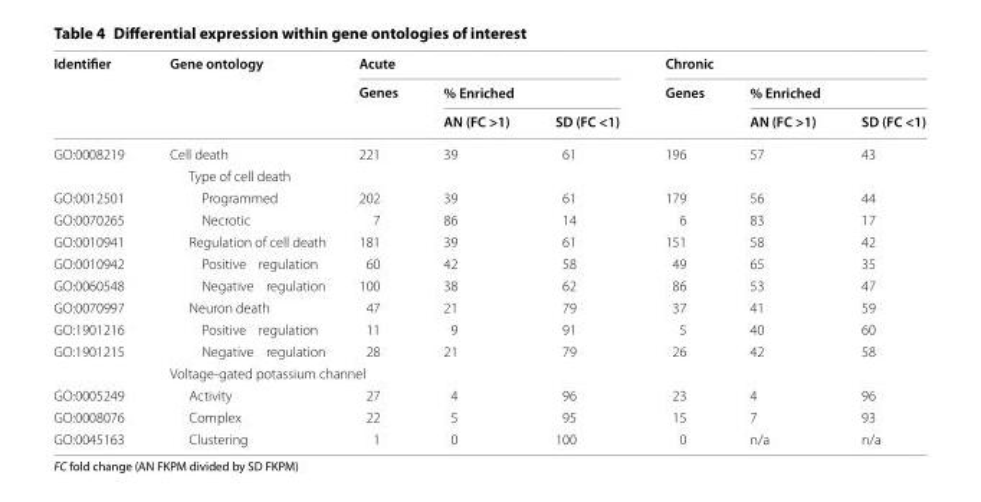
<table><thead><tr><td rowspan="3">Identifier</td><td rowspan="3">Gene ontology</td><td colspan="3">Acute</td><td colspan="3">Chronic</td></tr><tr><td rowspan="2">Genes</td><td colspan="2">% Enriched</td><td rowspan="2">Genes</td><td colspan="2">% Enriched</td></tr><tr><td>AN (FC &gt;1)</td><td>SD (FC &lt;1)</td><td>AN (FC &gt;1)</td><td>SD (FC &lt;1)</td></tr></thead><tbody><tr><td rowspan="2">GO:0008219</td><td>Cell death</td><td>221</td><td>39</td><td>61</td><td>196</td><td>57</td><td>43</td></tr><tr><td colspan="7">Type of cell death</td></tr><tr><td>GO:0012501</td><td>Programmed</td><td>202</td><td>39</td><td>61</td><td>179</td><td>56</td><td>44</td></tr><tr><td>GO:0070265</td><td>Necrotic</td><td>7</td><td>86</td><td>14</td><td>6</td><td>83</td><td>17</td></tr><tr><td>GO:0010941</td><td>Regulation of cell death</td><td>181</td><td>39</td><td>61</td><td>151</td><td>58</td><td>42</td></tr><tr><td>GO:0010942</td><td>Positive regulation</td><td>60</td><td>42</td><td>58</td><td>49</td><td>65</td><td>35</td></tr><tr><td>GO:0060548</td><td>Negative regulation</td><td>100</td><td>38</td><td>62</td><td>86</td><td>53</td><td>47</td></tr><tr><td>GO:0070997</td><td>Neuron death</td><td>47</td><td>21</td><td>79</td><td>37</td><td>41</td><td>59</td></tr><tr><td>GO:1901216</td><td>Positive regulation</td><td>11</td><td>9</td><td>91</td><td>5</td><td>40</td><td>60</td></tr><tr><td rowspan="2">GO:1901215</td><td>Negative regulation</td><td>28</td><td>21</td><td>79</td><td>26</td><td>42</td><td>58</td></tr><tr><td colspan="7">Voltage-gated potassium channel</td></tr><tr><td>GO:0005249</td><td>Activity</td><td>27</td><td>4</td><td>96</td><td>23</td><td>4</td><td>96</td></tr><tr><td>GO:0008076</td><td>Complex</td><td>22</td><td>5</td><td>95</td><td>15</td><td>7</td><td>93</td></tr><tr><td>GO:0045163</td><td>Clustering</td><td>1</td><td>0</td><td>100</td><td>0</td><td>n/a</td><td>n/a</td></tr></tbody></table>